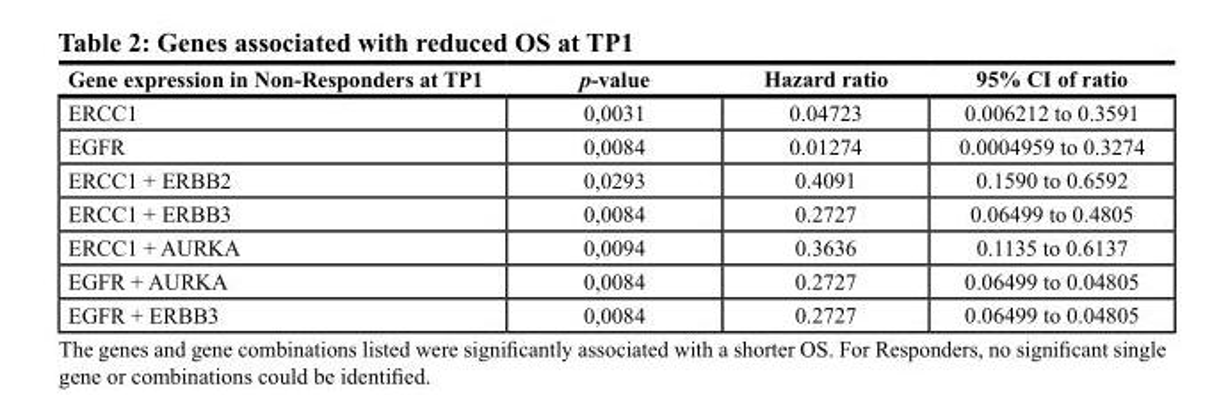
<table><thead><tr><td>Gene expression in Non-Responders at TP1</td><td>p-value</td><td>Hazard ratio</td><td>95% CI of ratio</td></tr></thead><tbody><tr><td>ERCC1</td><td>0,0031</td><td>0.04723</td><td>0.006212 to 0.3591</td></tr><tr><td>EGFR</td><td>0,0084</td><td>0.01274</td><td>0.0004959 to 0.3274</td></tr><tr><td>ERCC1 + ERBB2</td><td>0,0293</td><td>0.4091</td><td>0.1590 to 0.6592</td></tr><tr><td>ERCC1 + ERBB3</td><td>0,0084</td><td>0.2727</td><td>0.06499 to 0.4805</td></tr><tr><td>ERCC1 + AURKA</td><td>0,0094</td><td>0.3636</td><td>0.1135 to 0.6137</td></tr><tr><td>EGFR + AURKA</td><td>0,0084</td><td>0.2727</td><td>0.06499 to 0.04805</td></tr><tr><td>EGFR + ERBB3</td><td>0,0084</td><td>0.2727</td><td>0.06499 to 0.04805</td></tr></tbody></table>